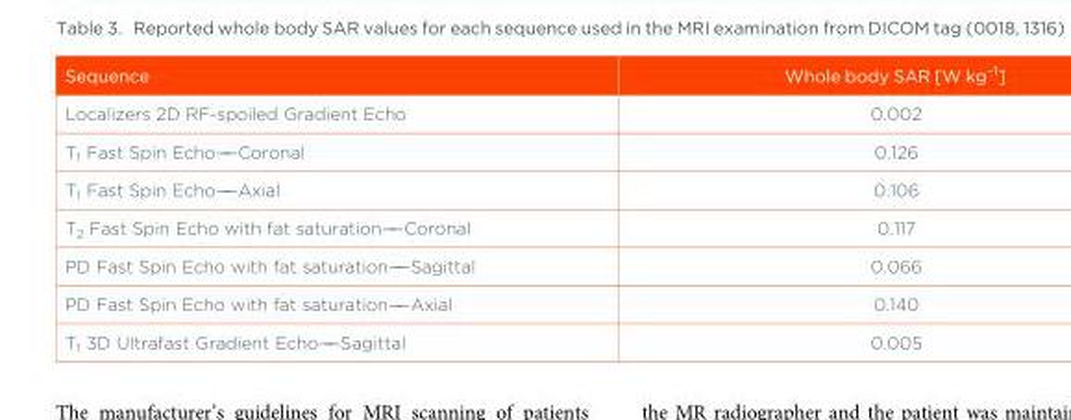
<table><thead><tr><td>Sequence</td><td>Whole body SAR [W kg<sup>–1</sup>]</td></tr></thead><tbody><tr><td>Localizers 2D RF-spoiled Gradient Echo</td><td>0.002</td></tr><tr><td>T1 Fast Spin Echo——Coronal</td><td>0.126</td></tr><tr><td>T1 Fast Spin Echo——Axial</td><td>0.106</td></tr><tr><td>T2 Fast Spin Echo with fat saturation——Coronal</td><td>0.117</td></tr><tr><td>PD Fast Spin Echo with fat saturation——Sagittal</td><td>0.066</td></tr><tr><td>PD Fast Spin Echo with fat saturation——Axial</td><td>0.140</td></tr><tr><td>T1 3D Ultrafast Gradient Echo——Sagittal</td><td>0.005</td></tr></tbody></table>